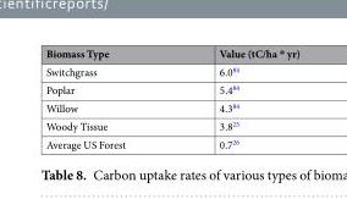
<table><thead><tr><td>Biomass Type</td><td>Value (tC/ha * yr)</td></tr></thead><tbody><tr><td>Switchgrass</td><td>6.0<sup>84</sup></td></tr><tr><td>Poplar</td><td>5.4<sup>84</sup></td></tr><tr><td>Willow</td><td>4.3<sup>84</sup></td></tr><tr><td>Woody Tissue</td><td>3.8<sup>25</sup></td></tr><tr><td>Average US Forest</td><td>0.7<sup>26</sup></td></tr></tbody></table>